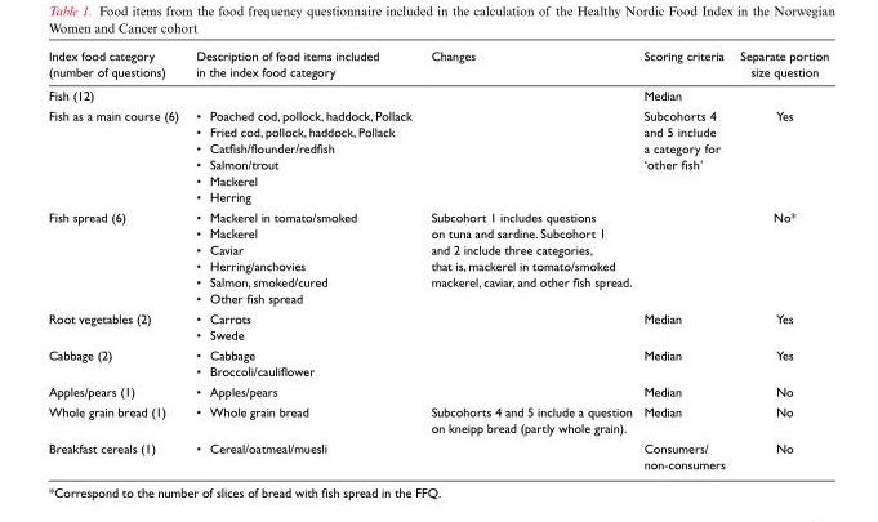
<table><thead><tr><td>Index food category (number of questions)</td><td>Description of food items included in the index food category</td><td>Changes</td><td>Scoring criteria</td><td>Separate portion size question</td></tr></thead><tbody><tr><td>Fish (12)</td><td></td><td></td><td>Median</td><td></td></tr><tr><td>Fish as a main course (6)</td><td>• Poached cod, pollock, haddock, Pollack • Fried cod, pollock, haddock, Pollack • Catfish/flounder/redfish • Salmon/trout • Mackerel • Herring</td><td></td><td>Subcohorts 4 and 5 include a category for ‘other fish’</td><td>Yes</td></tr><tr><td>Fish spread (6)</td><td>• Mackerel in tomato/smoked • Mackerel • Caviar • Herring/anchovies • Salmon, smoked/cured • Other fish spread</td><td>Subcohort 1 includes questions on tuna and sardine. Subcohort 1 and 2 include three categories, that is, mackerel in tomato/smoked mackerel, caviar, and other fish spread.</td><td></td><td>No*</td></tr><tr><td>Root vegetables (2)</td><td>• Carrots • Swede</td><td></td><td>Median</td><td>Yes</td></tr><tr><td>Cabbage (2)</td><td>• Cabbage • Broccoli/cauliflower</td><td></td><td>Median</td><td>Yes</td></tr><tr><td>Apples/pears (1)</td><td>• Apples/pears</td><td></td><td>Median</td><td>No</td></tr><tr><td>Whole grain bread (1)</td><td>• Whole grain bread</td><td>Subcohorts 4 and 5 include a question on kneipp bread (partly whole grain).</td><td>Median</td><td>No</td></tr><tr><td>Breakfast cereals (1)</td><td>• Cereal/oatmeal/muesli</td><td></td><td>Consumers/ non-consumers</td><td>No</td></tr></tbody></table>